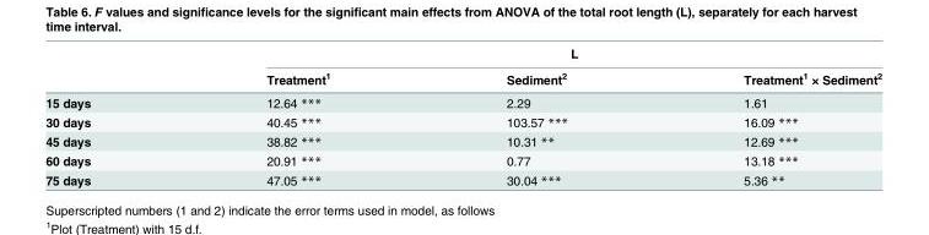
<table><thead><tr><td rowspan="2"></td><td colspan="3">L</td></tr><tr><td>Treatment<sup>1</sup></td><td>Sediment<sup>2</sup></td><td>Treatment<sup>1</sup> × Sediment<sup>2</sup></td></tr></thead><tbody><tr><td>15 days</td><td>12.64 ***</td><td>2.29</td><td>1.61</td></tr><tr><td>30 days</td><td>40.45 ***</td><td>103.57 ***</td><td>16.09 ***</td></tr><tr><td>45 days</td><td>38.82 ***</td><td>10.31 **</td><td>12.69 ***</td></tr><tr><td>60 days</td><td>20.91 ***</td><td>0.77</td><td>13.18 ***</td></tr><tr><td>75 days</td><td>47.05 ***</td><td>30.04 ***</td><td>5.36 **</td></tr></tbody></table>